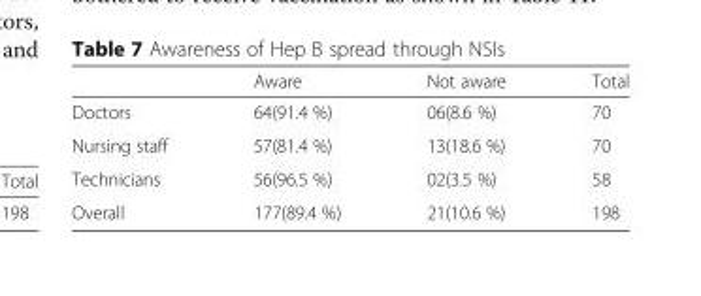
<table><thead><tr><td></td><td>Aware</td><td>Not aware</td><td>Total</td></tr></thead><tbody><tr><td>Doctors</td><td>64(91.4 %)</td><td>06(8.6 %)</td><td>70</td></tr><tr><td>Nursing staff</td><td>57(81.4 %)</td><td>13(18.6 %)</td><td>70</td></tr><tr><td>Technicians</td><td>56(96.5 %)</td><td>02(3.5 %)</td><td>58</td></tr><tr><td>Overall</td><td>177(89.4 %)</td><td>21(10.6 %)</td><td>198</td></tr></tbody></table>